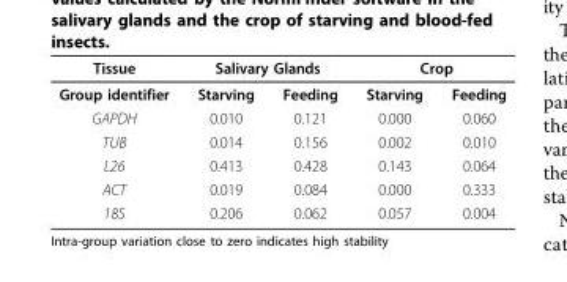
<table><thead><tr><td rowspan="2">Tissue Group identifier</td><td colspan="2">Salivary Glands</td><td colspan="2">Crop</td></tr><tr><td>Starving</td><td>Feeding</td><td>Starving</td><td>Feeding</td></tr></thead><tbody><tr><td>GAPDH</td><td>0.010</td><td>0.121</td><td>0.000</td><td>0.060</td></tr><tr><td>TUB</td><td>0.014</td><td>0.156</td><td>0.002</td><td>0.010</td></tr><tr><td>L26</td><td>0.413</td><td>0.428</td><td>0.143</td><td>0.064</td></tr><tr><td>ACT</td><td>0.019</td><td>0.084</td><td>0.000</td><td>0.333</td></tr><tr><td>18S</td><td>0.206</td><td>0.062</td><td>0.057</td><td>0.004</td></tr></tbody></table>